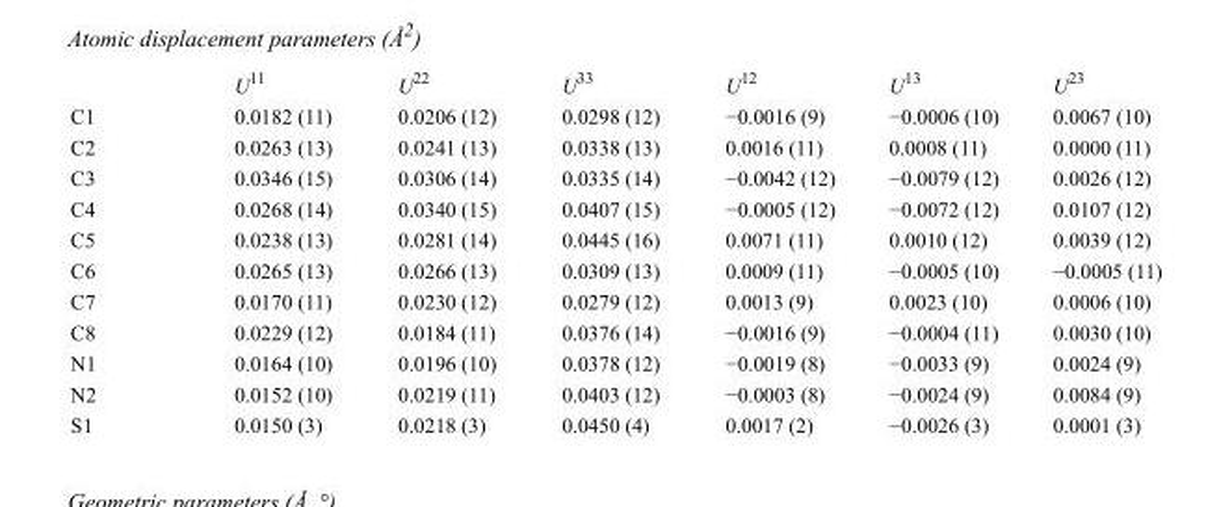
<table><thead><tr><td></td><td>U<sup>11</sup></td><td>U<sup>22</sup></td><td>U<sup>33</sup></td><td>U<sup>12</sup></td><td>U<sup>13</sup></td><td>U<sup>23</sup></td></tr></thead><tbody><tr><td>C1</td><td>0.0182 (11)</td><td>0.0206 (12)</td><td>0.0298 (12)</td><td>−0.0016 (9)</td><td>−0.0006 (10)</td><td>0.0067 (10)</td></tr><tr><td>C2</td><td>0.0263 (13)</td><td>0.0241 (13)</td><td>0.0338 (13)</td><td>0.0016 (11)</td><td>0.0008 (11)</td><td>0.0000 (11)</td></tr><tr><td>C3</td><td>0.0346 (15)</td><td>0.0306 (14)</td><td>0.0335 (14)</td><td>−0.0042 (12)</td><td>−0.0079 (12)</td><td>0.0026 (12)</td></tr><tr><td>C4</td><td>0.0268 (14)</td><td>0.0340 (15)</td><td>0.0407 (15)</td><td>−0.0005 (12)</td><td>−0.0072 (12)</td><td>0.0107 (12)</td></tr><tr><td>C5</td><td>0.0238 (13)</td><td>0.0281 (14)</td><td>0.0445 (16)</td><td>0.0071 (11)</td><td>0.0010 (12)</td><td>0.0039 (12)</td></tr><tr><td>C6</td><td>0.0265 (13)</td><td>0.0266 (13)</td><td>0.0309 (13)</td><td>0.0009 (11)</td><td>−0.0005 (10)</td><td>−0.0005 (11)</td></tr><tr><td>C7</td><td>0.0170 (11)</td><td>0.0230 (12)</td><td>0.0279 (12)</td><td>0.0013 (9)</td><td>0.0023 (10)</td><td>0.0006 (10)</td></tr><tr><td>C8</td><td>0.0229 (12)</td><td>0.0184 (11)</td><td>0.0376 (14)</td><td>−0.0016 (9)</td><td>−0.0004 (11)</td><td>0.0030 (10)</td></tr><tr><td>N1</td><td>0.0164 (10)</td><td>0.0196 (10)</td><td>0.0378 (12)</td><td>−0.0019 (8)</td><td>−0.0033 (9)</td><td>0.0024 (9)</td></tr><tr><td>N2</td><td>0.0152 (10)</td><td>0.0219 (11)</td><td>0.0403 (12)</td><td>−0.0003 (8)</td><td>−0.0024 (9)</td><td>0.0084 (9)</td></tr><tr><td>S1</td><td>0.0150 (3)</td><td>0.0218 (3)</td><td>0.0450 (4)</td><td>0.0017 (2)</td><td>−0.0026 (3)</td><td>0.0001 (3)</td></tr></tbody></table>